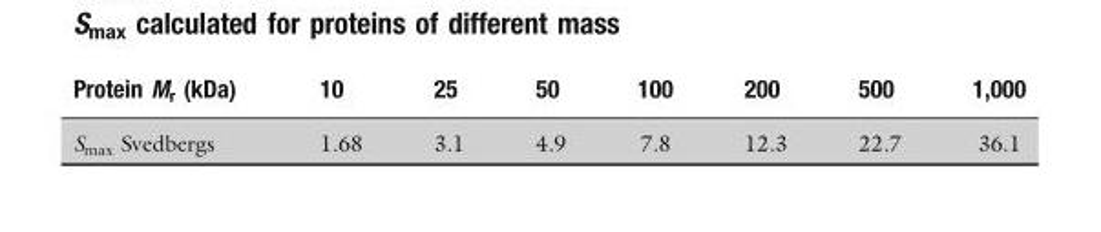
<table><thead><tr><td>Protein M<sub>r</sub> (kDa)</td><td>10</td><td>25</td><td>50</td><td>100</td><td>200</td><td>500</td><td>1,000</td></tr></thead><tbody><tr><td>S<sub>max</sub> Svedbergs</td><td>1.68</td><td>3.1</td><td>4.9</td><td>7.8</td><td>12.3</td><td>22.7</td><td>36.1</td></tr></tbody></table>